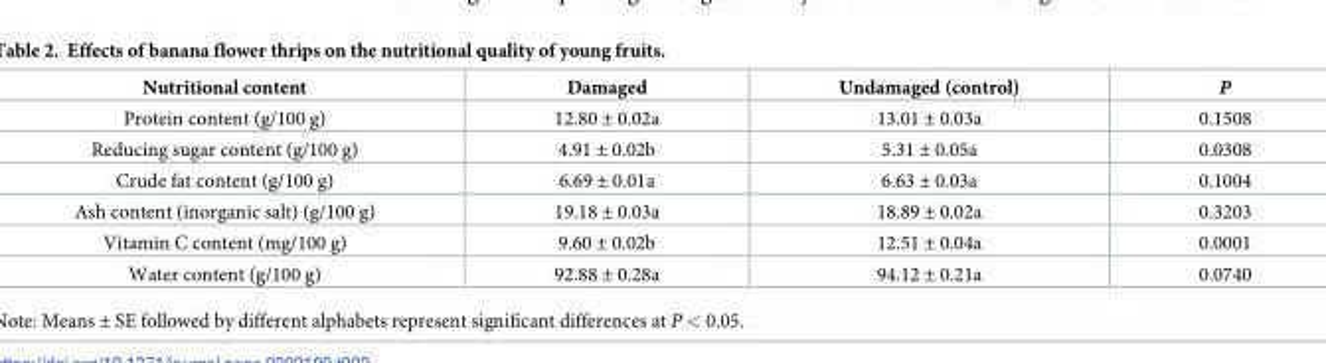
<table><thead><tr><td>Nutritional content</td><td>Damaged</td><td>Undamaged (control)</td><td>P</td></tr></thead><tbody><tr><td>Protein content (g/100 g)</td><td>12.80 ± 0.02a</td><td>13.01 ± 0.03a</td><td>0.1508</td></tr><tr><td>Reducing sugar content (g/100 g)</td><td>4.91 ± 0.02b</td><td>5.31 ± 0.05a</td><td>0.0308</td></tr><tr><td>Crude fat content (g/100 g)</td><td>6.69 ± 0.01a</td><td>6.63 ± 0.03a</td><td>0.1004</td></tr><tr><td>Ash content (inorganic salt) (g/100 g)</td><td>19.18 ± 0.03a</td><td>18.89 ± 0.02a</td><td>0.3203</td></tr><tr><td>Vitamin C content (mg/100 g)</td><td>9.60 ± 0.02b</td><td>12.51 ± 0.04a</td><td>0.0001</td></tr><tr><td>Water content (g/100 g)</td><td>92.88 ± 0.28a</td><td>94.12 ± 0.21a</td><td>0.0740</td></tr></tbody></table>